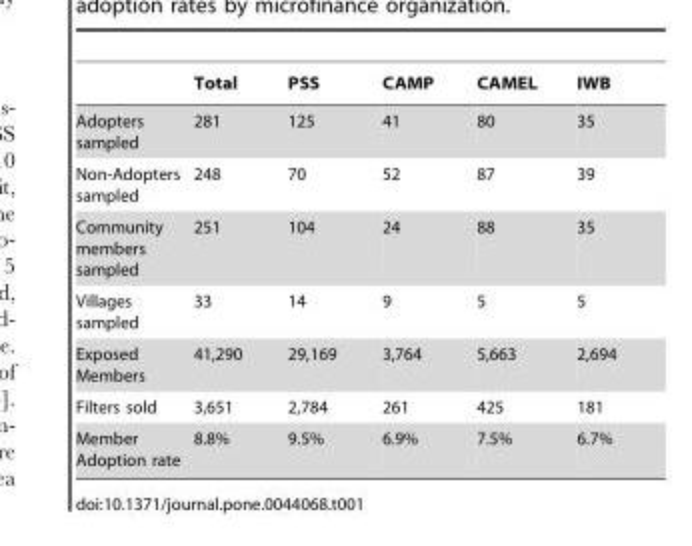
<table><thead><tr><td></td><td>Total</td><td>PSS</td><td>CAMP</td><td>CAMEL</td><td>IWB</td></tr></thead><tbody><tr><td>Adopters sampled</td><td>281</td><td>125</td><td>41</td><td>80</td><td>35</td></tr><tr><td>Non-Adopters sampled</td><td>248</td><td>70</td><td>52</td><td>87</td><td>39</td></tr><tr><td>Community members sampled</td><td>251</td><td>104</td><td>24</td><td>88</td><td>35</td></tr><tr><td>Villages sampled</td><td>33</td><td>14</td><td>9</td><td>5</td><td>5</td></tr><tr><td>Exposed Members</td><td>41,290</td><td>29,169</td><td>3,764</td><td>5,663</td><td>2,694</td></tr><tr><td>Filters sold</td><td>3,651</td><td>2,784</td><td>261</td><td>425</td><td>181</td></tr><tr><td>Member Adoption rate</td><td>8.8%</td><td>9.5%</td><td>6.9%</td><td>7.5%</td><td>6.7%</td></tr></tbody></table>